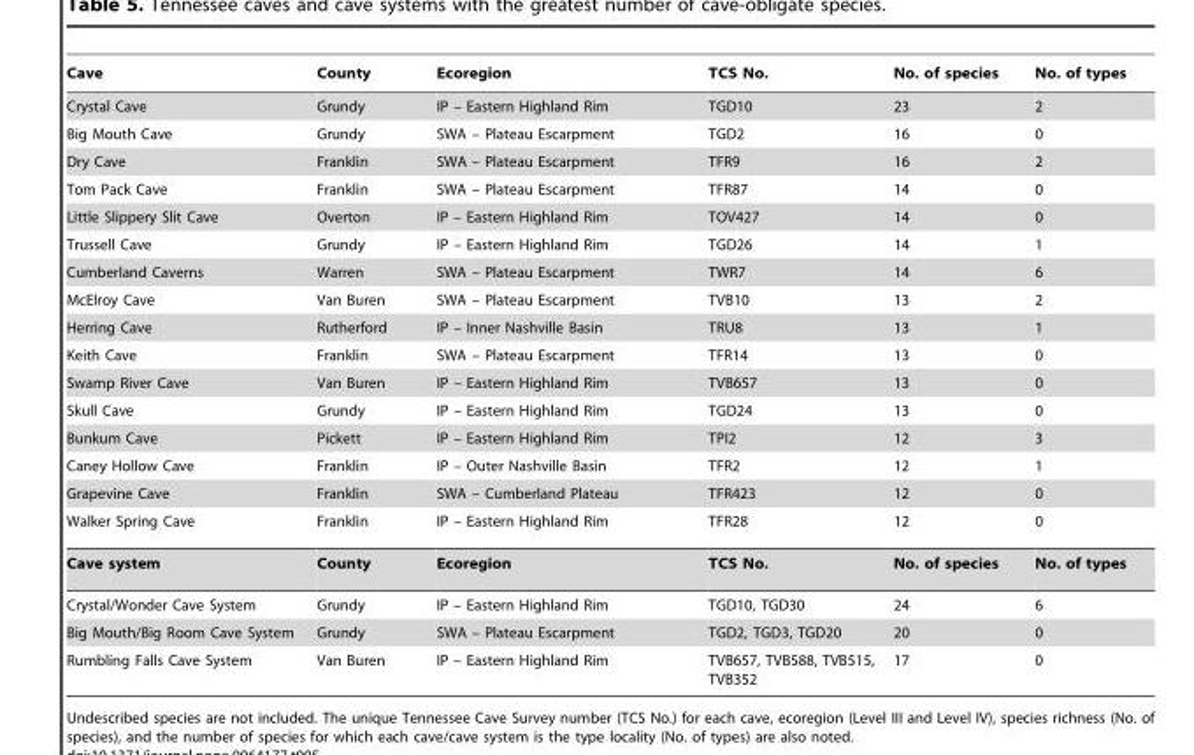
<table><thead><tr><td>Cave</td><td>County</td><td>Ecoregion</td><td>TCS No.</td><td>No. of species</td><td>No. of types</td></tr></thead><tbody><tr><td>Crystal Cave</td><td>Grundy</td><td>IP – Eastern Highland Rim</td><td>TGD10</td><td>23</td><td>2</td></tr><tr><td>Big Mouth Cave</td><td>Grundy</td><td>SWA – Plateau Escarpment</td><td>TGD2</td><td>16</td><td>0</td></tr><tr><td>Dry Cave</td><td>Franklin</td><td>SWA – Plateau Escarpment</td><td>TFR9</td><td>16</td><td>2</td></tr><tr><td>Tom Pack Cave</td><td>Franklin</td><td>SWA – Plateau Escarpment</td><td>TFR87</td><td>14</td><td>0</td></tr><tr><td>Little Slippery Slit Cave</td><td>Overton</td><td>IP – Eastern Highland Rim</td><td>TOV427</td><td>14</td><td>0</td></tr><tr><td>Trussell Cave</td><td>Grundy</td><td>IP – Eastern Highland Rim</td><td>TGD26</td><td>14</td><td>1</td></tr><tr><td>Cumberland Caverns</td><td>Warren</td><td>SWA – Plateau Escarpment</td><td>TWR7</td><td>14</td><td>6</td></tr><tr><td>McElroy Cave</td><td>Van Buren</td><td>SWA – Plateau Escarpment</td><td>TVB10</td><td>13</td><td>2</td></tr><tr><td>Herring Cave</td><td>Rutherford</td><td>IP – Inner Nashville Basin</td><td>TRU8</td><td>13</td><td>1</td></tr><tr><td>Keith Cave</td><td>Franklin</td><td>SWA – Plateau Escarpment</td><td>TFR14</td><td>13</td><td>0</td></tr><tr><td>Swamp River Cave</td><td>Van Buren</td><td>IP – Eastern Highland Rim</td><td>TVB657</td><td>13</td><td>0</td></tr><tr><td>Skull Cave</td><td>Grundy</td><td>IP – Eastern Highland Rim</td><td>TGD24</td><td>13</td><td>0</td></tr><tr><td>Bunkum Cave</td><td>Pickett</td><td>IP – Eastern Highland Rim</td><td>TPI2</td><td>12</td><td>3</td></tr><tr><td>Caney Hollow Cave</td><td>Franklin</td><td>IP – Outer Nashville Basin</td><td>TFR2</td><td>12</td><td>1</td></tr><tr><td>Grapevine Cave</td><td>Franklin</td><td>SWA – Cumberland Plateau</td><td>TFR423</td><td>12</td><td>0</td></tr><tr><td>Walker Spring Cave</td><td>Franklin</td><td>IP – Eastern Highland Rim</td><td>TFR28</td><td>12</td><td>0</td></tr><tr><td>Cave system</td><td>County</td><td>Ecoregion</td><td>TCS No.</td><td>No. of species</td><td>No. of types</td></tr><tr><td>Crystal/Wonder Cave System</td><td>Grundy</td><td>IP – Eastern Highland Rim</td><td>TGD10, TGD30</td><td>24</td><td>6</td></tr><tr><td>Big Mouth/Big Room Cave System</td><td>Grundy</td><td>SWA – Plateau Escarpment</td><td>TGD2, TGD3, TGD20</td><td>20</td><td>0</td></tr><tr><td>Rumbling Falls Cave System</td><td>Van Buren</td><td>IP – Eastern Highland Rim</td><td>TVB657, TVB588, TVB515, TVB352</td><td>17</td><td>0</td></tr></tbody></table>